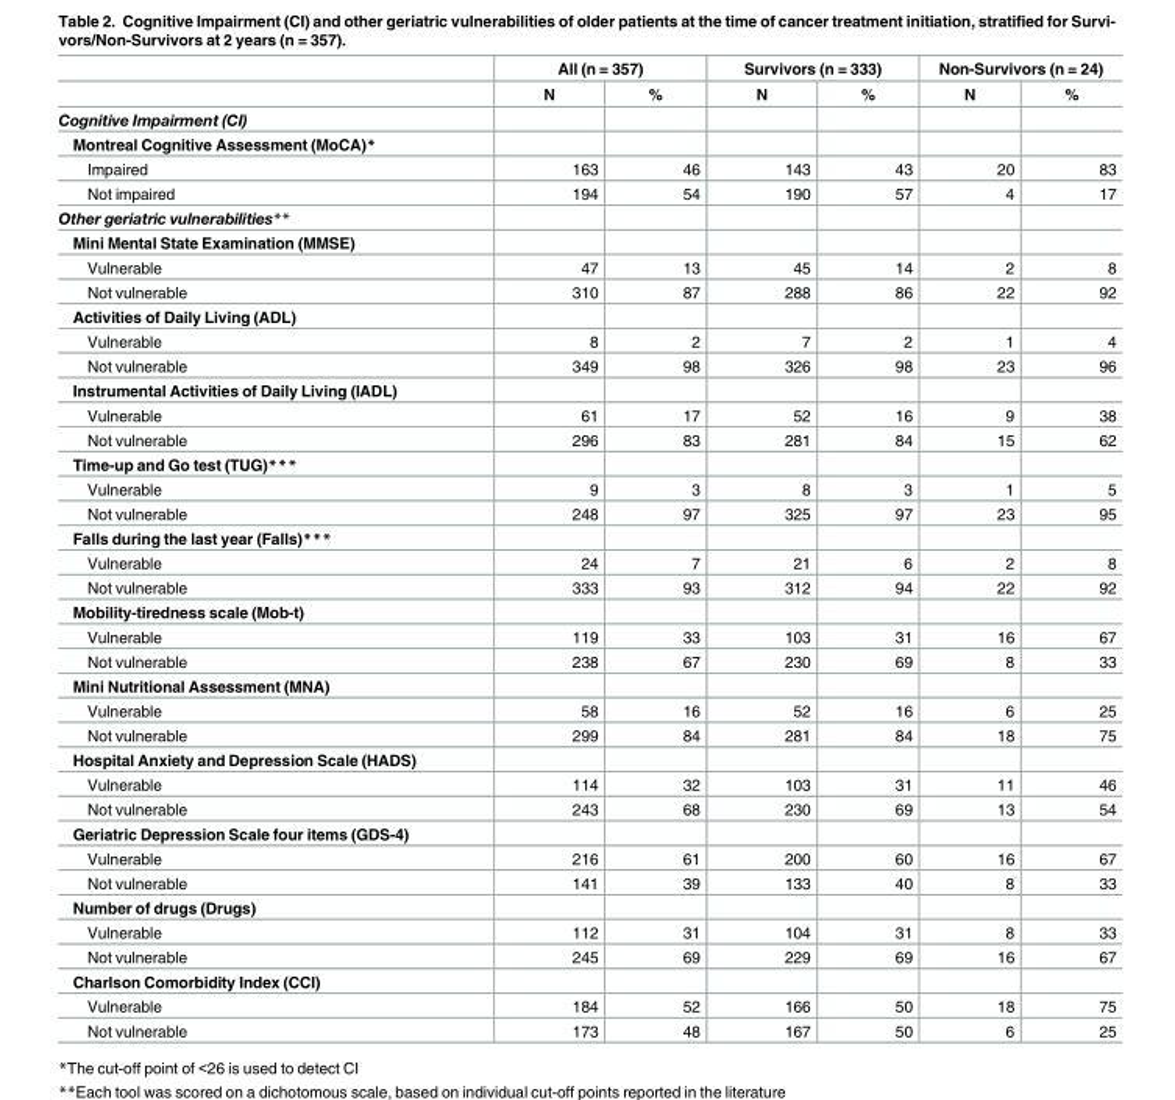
<table><thead><tr><td rowspan="2"></td><td colspan="2">All (n = 357)</td><td colspan="2">Survivors (n = 333)</td><td colspan="2">Non-Survivors (n = 24)</td></tr><tr><td>N</td><td>%</td><td>N</td><td>%</td><td>N</td><td>%</td></tr></thead><tbody><tr><td colspan="7">Cognitive Impairment (CI)</td></tr><tr><td colspan="7">Montreal Cognitive Assessment (MoCA)*</td></tr><tr><td>Impaired</td><td>163</td><td>46</td><td>143</td><td>43</td><td>20</td><td>83</td></tr><tr><td>Not impaired</td><td>194</td><td>54</td><td>190</td><td>57</td><td>4</td><td>17</td></tr><tr><td colspan="7">Other geriatric vulnerabilities**</td></tr><tr><td colspan="7">Mini Mental State Examination (MMSE)</td></tr><tr><td>Vulnerable</td><td>47</td><td>13</td><td>45</td><td>14</td><td>2</td><td>8</td></tr><tr><td>Not vulnerable</td><td>310</td><td>87</td><td>288</td><td>86</td><td>22</td><td>92</td></tr><tr><td colspan="7">Activities of Daily Living (ADL)</td></tr><tr><td>Vulnerable</td><td>8</td><td>2</td><td>7</td><td>2</td><td>1</td><td>4</td></tr><tr><td>Not vulnerable</td><td>349</td><td>98</td><td>326</td><td>98</td><td>23</td><td>96</td></tr><tr><td colspan="7">Instrumental Activities of Daily Living (IADL)</td></tr><tr><td>Vulnerable</td><td>61</td><td>17</td><td>52</td><td>16</td><td>9</td><td>38</td></tr><tr><td>Not vulnerable</td><td>296</td><td>83</td><td>281</td><td>84</td><td>15</td><td>62</td></tr><tr><td colspan="7">Time-up and Go test (TUG)***</td></tr><tr><td>Vulnerable</td><td>9</td><td>3</td><td>8</td><td>3</td><td>1</td><td>5</td></tr><tr><td>Not vulnerable</td><td>248</td><td>97</td><td>325</td><td>97</td><td>23</td><td>95</td></tr><tr><td colspan="7">Falls during the last year (Falls)***</td></tr><tr><td>Vulnerable</td><td>24</td><td>7</td><td>21</td><td>6</td><td>2</td><td>8</td></tr><tr><td>Not vulnerable</td><td>333</td><td>93</td><td>312</td><td>94</td><td>22</td><td>92</td></tr><tr><td colspan="7">Mobility-tiredness scale (Mob-t)</td></tr><tr><td>Vulnerable</td><td>119</td><td>33</td><td>103</td><td>31</td><td>16</td><td>67</td></tr><tr><td>Not vulnerable</td><td>238</td><td>67</td><td>230</td><td>69</td><td>8</td><td>33</td></tr><tr><td colspan="7">Mini Nutritional Assessment (MNA)</td></tr><tr><td>Vulnerable</td><td>58</td><td>16</td><td>52</td><td>16</td><td>6</td><td>25</td></tr><tr><td>Not vulnerable</td><td>299</td><td>84</td><td>281</td><td>84</td><td>18</td><td>75</td></tr><tr><td colspan="7">Hospital Anxiety and Depression Scale (HADS)</td></tr><tr><td>Vulnerable</td><td>114</td><td>32</td><td>103</td><td>31</td><td>11</td><td>46</td></tr><tr><td>Not vulnerable</td><td>243</td><td>68</td><td>230</td><td>69</td><td>13</td><td>54</td></tr><tr><td colspan="7">Geriatric Depression Scale four items (GDS-4)</td></tr><tr><td>Vulnerable</td><td>216</td><td>61</td><td>200</td><td>60</td><td>16</td><td>67</td></tr><tr><td>Not vulnerable</td><td>141</td><td>39</td><td>133</td><td>40</td><td>8</td><td>33</td></tr><tr><td colspan="7">Number of drugs (Drugs)</td></tr><tr><td>Vulnerable</td><td>112</td><td>31</td><td>104</td><td>31</td><td>8</td><td>33</td></tr><tr><td>Not vulnerable</td><td>245</td><td>69</td><td>229</td><td>69</td><td>16</td><td>67</td></tr><tr><td colspan="7">Charlson Comorbidity Index (CCI)</td></tr><tr><td>Vulnerable</td><td>184</td><td>52</td><td>166</td><td>50</td><td>18</td><td>75</td></tr><tr><td>Not vulnerable</td><td>173</td><td>48</td><td>167</td><td>50</td><td>6</td><td>25</td></tr></tbody></table>